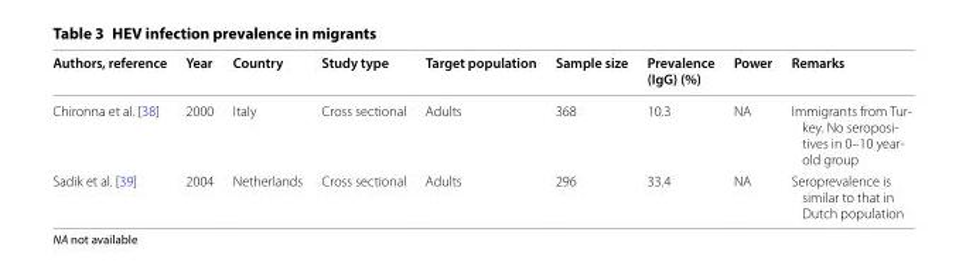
<table><thead><tr><td>Authors, reference</td><td>Year</td><td>Country</td><td>Study type</td><td>Target population</td><td>Sample size</td><td>Prevalence (IgG) (%)</td><td>Power</td><td>Remarks</td></tr></thead><tbody><tr><td>Chironna et al. [38]</td><td>2000</td><td>Italy</td><td>Cross sectional</td><td>Adults</td><td>368</td><td>10.3</td><td>NA</td><td>Immigrants from Tur- key. No seroposi- tives in 0–10 year- old group</td></tr><tr><td>Sadik et al. [39]</td><td>2004</td><td>Netherlands</td><td>Cross sectional</td><td>Adults</td><td>296</td><td>33.4</td><td>NA</td><td>Seroprevalence is similar to that in Dutch population</td></tr></tbody></table>